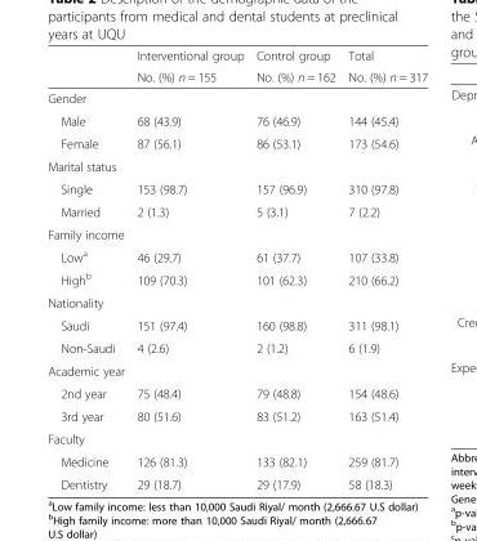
<table><thead><tr><td rowspan="2"></td><td rowspan="2">Interventional group No. (%) n = 155</td><td rowspan="2">Control group No. (%) n = 162</td><td rowspan="2">Total No. (%) n = 317</td></tr><tr></tr></thead><tbody><tr><td colspan="4">Gender</td></tr><tr><td>Male</td><td>68 (43.9)</td><td>76 (46.9)</td><td>144 (45.4)</td></tr><tr><td>Female</td><td>87 (56.1)</td><td>86 (53.1)</td><td>173 (54.6)</td></tr><tr><td colspan="4">Marital status</td></tr><tr><td>Single</td><td>153 (98.7)</td><td>157 (96.9)</td><td>310 (97.8)</td></tr><tr><td>Married</td><td>2 (1.3)</td><td>5 (3.1)</td><td>7 (2.2)</td></tr><tr><td colspan="4">Family income</td></tr><tr><td>Low<sup>a</sup></td><td>46 (29.7)</td><td>61 (37.7)</td><td>107 (33.8)</td></tr><tr><td>High<sup>b</sup></td><td>109 (70.3)</td><td>101 (62.3)</td><td>210 (66.2)</td></tr><tr><td colspan="4">Nationality</td></tr><tr><td>Saudi</td><td>151 (97.4)</td><td>160 (98.8)</td><td>311 (98.1)</td></tr><tr><td>Non-Saudi</td><td>4 (2.6)</td><td>2 (1.2)</td><td>6 (1.9)</td></tr><tr><td colspan="4">Academic year</td></tr><tr><td>2nd year</td><td>75 (48.4)</td><td>79 (48.8)</td><td>154 (48.6)</td></tr><tr><td>3rd year</td><td>80 (51.6)</td><td>83 (51.2)</td><td>163 (51.4)</td></tr><tr><td colspan="4">Faculty</td></tr><tr><td>Medicine</td><td>126 (81.3)</td><td>133 (82.1)</td><td>259 (81.7)</td></tr><tr><td>Dentistry</td><td>29 (18.7)</td><td>29 (17.9)</td><td>58 (18.3)</td></tr></tbody></table>